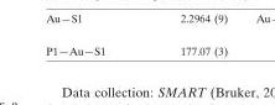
<table><tbody><tr><td>P1—Au—S1</td><td>177.07 (3)</td></tr></tbody></table>